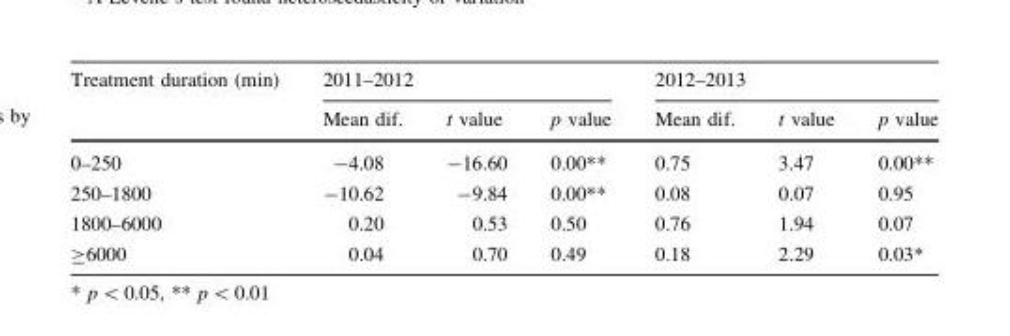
<table><thead><tr><td rowspan="2">Treatment duration (min)</td><td colspan="3">2011–2012</td><td colspan="3">2012–2013</td></tr><tr><td>Mean dif.</td><td>t value</td><td>p value</td><td>Mean dif.</td><td>t value</td><td>p value</td></tr></thead><tbody><tr><td>0–250</td><td>-4.08</td><td>-16.60</td><td>0.00**</td><td>0.75</td><td>3.47</td><td>0.00**</td></tr><tr><td>250–1800</td><td>-10.62</td><td>-9.84</td><td>0.00**</td><td>0.08</td><td>0.07</td><td>0.95</td></tr><tr><td>1800–6000</td><td>0.20</td><td>0.53</td><td>0.50</td><td>0.76</td><td>1.94</td><td>0.07</td></tr><tr><td>≥6000</td><td>0.04</td><td>0.70</td><td>0.49</td><td>0.18</td><td>2.29</td><td>0.03*</td></tr></tbody></table>